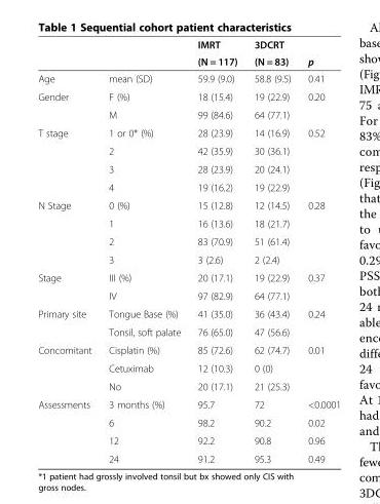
<table><thead><tr><td rowspan="2"></td><td rowspan="2"></td><td rowspan="2">IMRT (N = 117)</td><td rowspan="2">3DCRT (N = 83)</td><td rowspan="2">p</td></tr><tr></tr></thead><tbody><tr><td>Age</td><td>mean (SD)</td><td>59.9 (9.0)</td><td>58.8 (9.5)</td><td>0.41</td></tr><tr><td rowspan="2">Gender</td><td>F (%)</td><td>18 (15.4)</td><td>19 (22.9)</td><td>0.20</td></tr><tr><td>M</td><td>99 (84.6)</td><td>64 (77.1)</td><td></td></tr><tr><td rowspan="4">T stage</td><td>1 or 0* (%)</td><td>28 (23.9)</td><td>14 (16.9)</td><td>0.52</td></tr><tr><td>2</td><td>42 (35.9)</td><td>30 (36.1)</td><td></td></tr><tr><td>3</td><td>28 (23.9)</td><td>20 (24.1)</td><td></td></tr><tr><td>4</td><td>19 (16.2)</td><td>19 (22.9)</td><td></td></tr><tr><td rowspan="4">N Stage</td><td>0 (%)</td><td>15 (12.8)</td><td>12 (14.5)</td><td>0.28</td></tr><tr><td>1</td><td>16 (13.6)</td><td>18 (21.7)</td><td></td></tr><tr><td>2</td><td>83 (70.9)</td><td>51 (61.4)</td><td></td></tr><tr><td>3</td><td>3 (2.6)</td><td>2 (2.4)</td><td></td></tr><tr><td rowspan="2">Stage</td><td>III (%)</td><td>20 (17.1)</td><td>19 (22.9)</td><td>0.37</td></tr><tr><td>IV</td><td>97 (82.9)</td><td>64 (77.1)</td><td></td></tr><tr><td rowspan="2">Primary site</td><td>Tongue Base (%)</td><td>41 (35.0)</td><td>36 (43.4)</td><td>0.24</td></tr><tr><td>Tonsil, soft palate</td><td>76 (65.0)</td><td>47 (56.6)</td><td></td></tr><tr><td rowspan="3">Concomitant</td><td>Cisplatin (%)</td><td>85 (72.6)</td><td>62 (74.7)</td><td>0.01</td></tr><tr><td>Cetuximab</td><td>12 (10.3)</td><td>0 (0)</td><td></td></tr><tr><td>No</td><td>20 (17.1)</td><td>21 (25.3)</td><td></td></tr><tr><td rowspan="4">Assessments</td><td>3 months (%)</td><td>95.7</td><td>72</td><td>&lt;0.0001</td></tr><tr><td>6</td><td>98.2</td><td>90.2</td><td>0.02</td></tr><tr><td>12</td><td>92.2</td><td>90.8</td><td>0.96</td></tr><tr><td>24</td><td>91.2</td><td>95.3</td><td>0.49</td></tr></tbody></table>